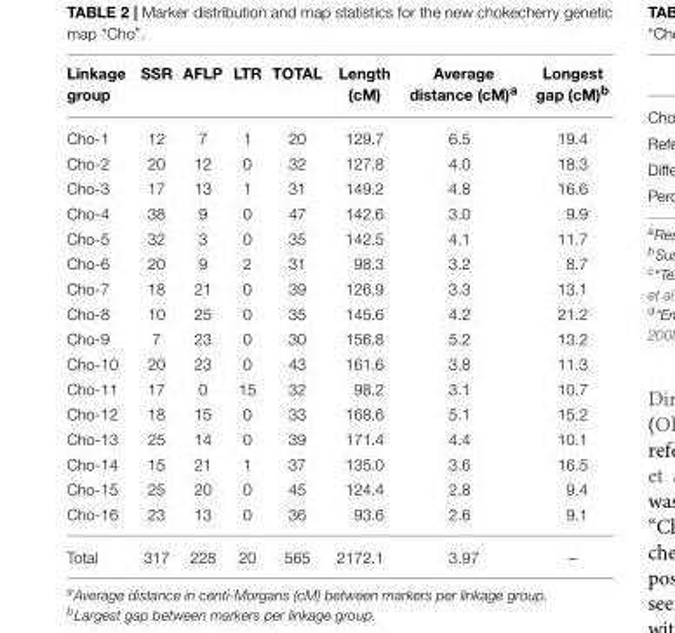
<table><thead><tr><td>Linkage group</td><td>SSR</td><td>AFLP</td><td>LTR</td><td>TOTAL</td><td>Length (cM)</td><td>Average distance (cM)<sup>a</sup></td><td>Longest gap (cM)<sup>b</sup></td></tr></thead><tbody><tr><td>Cho-1</td><td>12</td><td>7</td><td>1</td><td>20</td><td>129.7</td><td>6.5</td><td>19.4</td></tr><tr><td>Cho-2</td><td>20</td><td>12</td><td>0</td><td>32</td><td>127.8</td><td>4.0</td><td>18.3</td></tr><tr><td>Cho-3</td><td>17</td><td>13</td><td>1</td><td>31</td><td>149.2</td><td>4.8</td><td>16.6</td></tr><tr><td>Cho-4</td><td>38</td><td>9</td><td>0</td><td>47</td><td>142.6</td><td>3.0</td><td>9.9</td></tr><tr><td>Cho-5</td><td>32</td><td>3</td><td>0</td><td>35</td><td>142.5</td><td>4.1</td><td>11.7</td></tr><tr><td>Cho-6</td><td>20</td><td>9</td><td>2</td><td>31</td><td>98.3</td><td>3.2</td><td>8.7</td></tr><tr><td>Cho-7</td><td>18</td><td>21</td><td>0</td><td>39</td><td>126.9</td><td>3.3</td><td>13.1</td></tr><tr><td>Cho-8</td><td>10</td><td>25</td><td>0</td><td>35</td><td>145.6</td><td>4.2</td><td>21.2</td></tr><tr><td>Cho-9</td><td>7</td><td>23</td><td>0</td><td>30</td><td>156.8</td><td>5.2</td><td>13.2</td></tr><tr><td>Cho-10</td><td>20</td><td>23</td><td>0</td><td>43</td><td>161.6</td><td>3.8</td><td>11.3</td></tr><tr><td>Cho-11</td><td>17</td><td>0</td><td>15</td><td>32</td><td>98.2</td><td>3.1</td><td>10.7</td></tr><tr><td>Cho-12</td><td>18</td><td>15</td><td>0</td><td>33</td><td>168.6</td><td>5.1</td><td>15.2</td></tr><tr><td>Cho-13</td><td>25</td><td>14</td><td>0</td><td>39</td><td>171.4</td><td>4.4</td><td>10.1</td></tr><tr><td>Cho-14</td><td>15</td><td>21</td><td>1</td><td>37</td><td>135.0</td><td>3.6</td><td>16.5</td></tr><tr><td>Cho-15</td><td>25</td><td>20</td><td>0</td><td>45</td><td>124.4</td><td>2.8</td><td>9.4</td></tr><tr><td>Cho-16</td><td>23</td><td>13</td><td>0</td><td>36</td><td>93.6</td><td>2.6</td><td>9.1</td></tr><tr><td>Total</td><td>317</td><td>228</td><td>20</td><td>565</td><td>2172.1</td><td>3.97</td><td>–</td></tr></tbody></table>